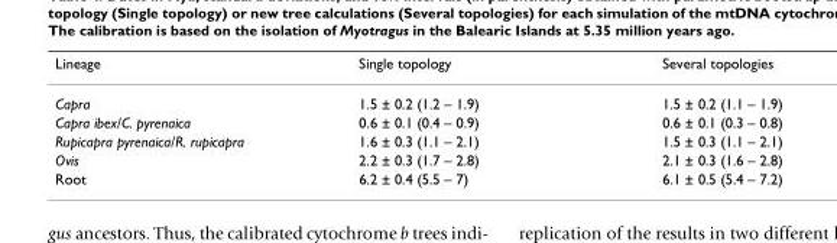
<table><thead><tr><td>Lineage</td><td>Single topology</td><td>Several topologies</td></tr></thead><tbody><tr><td>Capra</td><td>1.5 ± 0.2 (1.2 – 1.9)</td><td>1.5 ± 0.2 (1.1 – 1.9)</td></tr><tr><td>Capra ibex/C. pyrenaica</td><td>0.6 ± 0.1 (0.4 – 0.9)</td><td>0.6 ± 0.1 (0.3 – 0.8)</td></tr><tr><td>Rupicapra pyrenaica/R. rupicapra</td><td>1.6 ± 0.3 (1.1 – 2.1)</td><td>1.5 ± 0.3 (1.1 – 2.1)</td></tr><tr><td>Ovis</td><td>2.2 ± 0.3 (1.7 – 2.8)</td><td>2.1 ± 0.3 (1.6 – 2.8)</td></tr><tr><td>Root</td><td>6.2 ± 0.4 (5.5 – 7)</td><td>6.1 ± 0.5 (5.4 – 7.2)</td></tr></tbody></table>